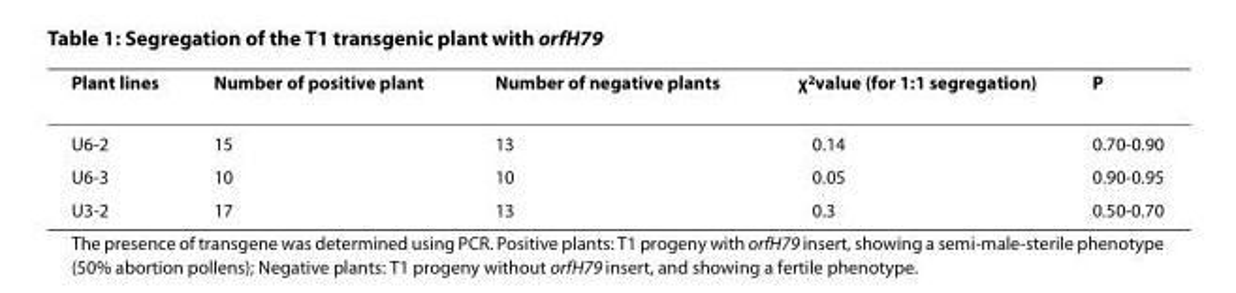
<table><thead><tr><td>Plant lines</td><td>Number of positive plant</td><td>Number of negative plants</td><td>χ<sup>2</sup>value (for 1:1 segregation)</td><td>P</td></tr></thead><tbody><tr><td>U6-2</td><td>15</td><td>13</td><td>0.14</td><td>0.70-0.90</td></tr><tr><td>U6-3</td><td>10</td><td>10</td><td>0.05</td><td>0.90-0.95</td></tr><tr><td>U3-2</td><td>17</td><td>13</td><td>0.3</td><td>0.50-0.70</td></tr></tbody></table>